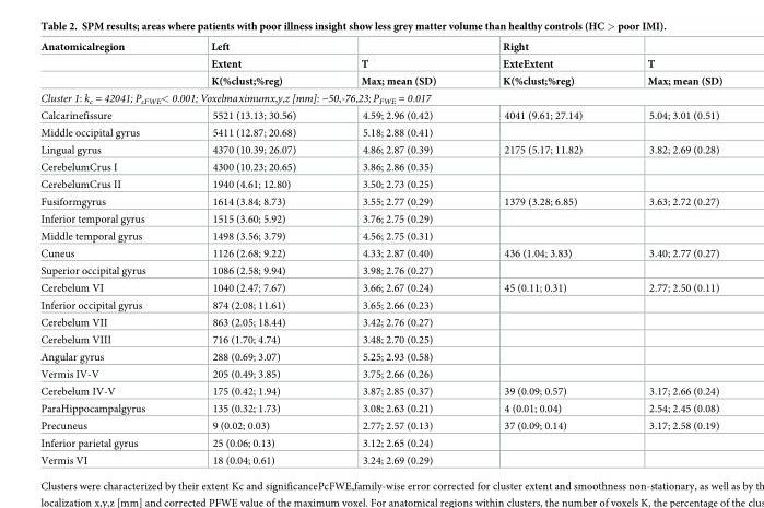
<table><thead><tr><td rowspan="3">Anatomicalregion</td><td rowspan="3">Left Extent K(%clust;%reg)</td><td rowspan="3">T Max; mean (SD)</td><td rowspan="3">Right ExteExtent K(%clust;%reg)</td><td rowspan="3">T Max; mean (SD)</td></tr><tr></tr><tr></tr></thead><tbody><tr><td colspan="5">Cluster 1: k<sub>c</sub> = 42041; P<sub>cFWE</sub>&lt; 0.001; Voxelmaximumx,y,z [mm]: −50,-76,23; P<sub>FWE</sub> = 0.017</td></tr><tr><td>Calcarinefissure</td><td>5521 (13.13; 30.56)</td><td>4.59; 2.96 (0.42)</td><td>4041 (9.61; 27.14)</td><td>5.04; 3.01 (0.51)</td></tr><tr><td>Middle occipital gyrus</td><td>5411 (12.87; 20.68)</td><td>5.18; 2.88 (0.41)</td><td></td><td></td></tr><tr><td>Lingual gyrus</td><td>4370 (10.39; 26.07)</td><td>4.86; 2.87 (0.39)</td><td>2175 (5.17; 11.82)</td><td>3.82; 2.69 (0.28)</td></tr><tr><td>CerebelumCrus I</td><td>4300 (10.23; 20.65)</td><td>3.86; 2.86 (0.35)</td><td></td><td></td></tr><tr><td>CerebelumCrus II</td><td>1940 (4.61; 12.80)</td><td>3.50; 2.73 (0.25)</td><td></td><td></td></tr><tr><td>Fusiformgyrus</td><td>1614 (3.84; 8.73)</td><td>3.55; 2.77 (0.29)</td><td>1379 (3.28; 6.85)</td><td>3.63; 2.72 (0.27)</td></tr><tr><td>Inferior temporal gyrus</td><td>1515 (3.60; 5.92)</td><td>3.76; 2.75 (0.29)</td><td></td><td></td></tr><tr><td>Middle temporal gyrus</td><td>1498 (3.56; 3.79)</td><td>4.56; 2.75 (0.31)</td><td></td><td></td></tr><tr><td>Cuneus</td><td>1126 (2.68; 9.22)</td><td>4.33; 2.87 (0.40)</td><td>436 (1.04; 3.83)</td><td>3.40; 2.77 (0.27)</td></tr><tr><td>Superior occipital gyrus</td><td>1086 (2.58; 9.94)</td><td>3.98; 2.76 (0.27)</td><td></td><td></td></tr><tr><td>Cerebelum VI</td><td>1040 (2.47; 7.67)</td><td>3.66; 2.67 (0.24)</td><td>45 (0.11; 0.31)</td><td>2.77; 2.50 (0.11)</td></tr><tr><td>Inferior occipital gyrus</td><td>874 (2.08; 11.61)</td><td>3.65; 2.66 (0.23)</td><td></td><td></td></tr><tr><td>Cerebelum VII</td><td>863 (2.05; 18.44)</td><td>3.42; 2.76 (0.27)</td><td></td><td></td></tr><tr><td>Cerebelum VIII</td><td>716 (1.70; 4.74)</td><td>3.48; 2.70 (0.25)</td><td></td><td></td></tr><tr><td>Angular gyrus</td><td>288 (0.69; 3.07)</td><td>5.25; 2.93 (0.58)</td><td></td><td></td></tr><tr><td>Vermis IV-V</td><td>205 (0.49; 3.85)</td><td>3.75; 2.66 (0.26)</td><td></td><td></td></tr><tr><td>Cerebelum IV-V</td><td>175 (0.42; 1.94)</td><td>3.87; 2.85 (0.37)</td><td>39 (0.09; 0.57)</td><td>3.17; 2.66 (0.24)</td></tr><tr><td>ParaHippocampalgyrus</td><td>135 (0.32; 1.73)</td><td>3.08; 2.63 (0.21)</td><td>4 (0.01; 0.04)</td><td>2.54; 2.45 (0.08)</td></tr><tr><td>Precuneus</td><td>9 (0.02; 0.03)</td><td>2.77; 2.57 (0.13)</td><td>37 (0.09; 0.14)</td><td>3.17; 2.58 (0.19)</td></tr><tr><td>Inferior parietal gyrus</td><td>25 (0.06; 0.13)</td><td>3.12; 2.65 (0.24)</td><td></td><td></td></tr><tr><td>Vermis VI</td><td>18 (0.04; 0.61)</td><td>3.24; 2.69 (0.29)</td><td></td><td></td></tr></tbody></table>